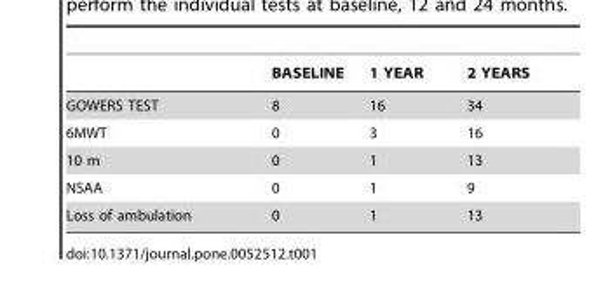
<table><thead><tr><td></td><td>BASELINE</td><td>1 YEAR</td><td>2 YEARS</td></tr></thead><tbody><tr><td>GOWERS TEST</td><td>8</td><td>16</td><td>34</td></tr><tr><td>6MWT</td><td>0</td><td>3</td><td>16</td></tr><tr><td>10 m</td><td>0</td><td>1</td><td>13</td></tr><tr><td>NSAA</td><td>0</td><td>1</td><td>9</td></tr><tr><td>Loss of ambulation</td><td>0</td><td>1</td><td>13</td></tr></tbody></table>